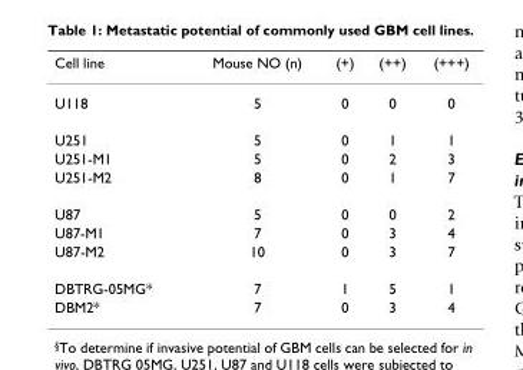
<table><thead><tr><td>Cell line</td><td>Mouse NO (n)</td><td>(+)</td><td>(++)</td><td>(+++)</td></tr></thead><tbody><tr><td>U118</td><td>5</td><td>0</td><td>0</td><td>0</td></tr><tr><td>U251</td><td>5</td><td>0</td><td>1</td><td>1</td></tr><tr><td>U251-M1</td><td>5</td><td>0</td><td>2</td><td>3</td></tr><tr><td>U251-M2</td><td>8</td><td>0</td><td>1</td><td>7</td></tr><tr><td>U87</td><td>5</td><td>0</td><td>0</td><td>2</td></tr><tr><td>U87-M1</td><td>7</td><td>0</td><td>3</td><td>4</td></tr><tr><td>U87-M2</td><td>10</td><td>0</td><td>3</td><td>7</td></tr><tr><td>DBTRG-05MG*</td><td>7</td><td>1</td><td>5</td><td>1</td></tr><tr><td>DBM2*</td><td>7</td><td>0</td><td>3</td><td>4</td></tr></tbody></table>